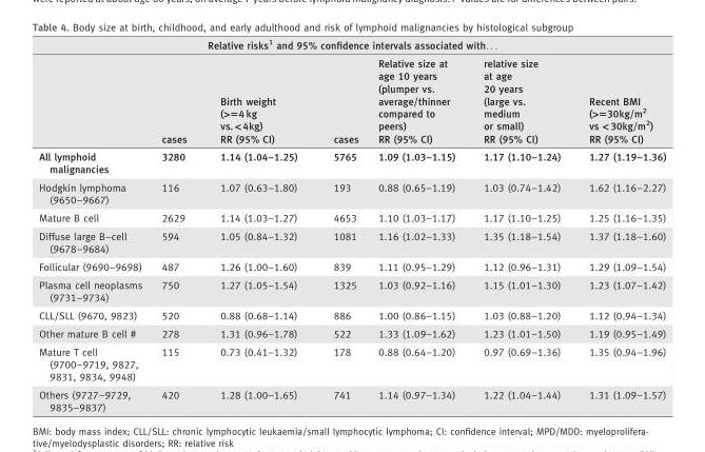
<table><thead><tr><td colspan="7">Relative risks1 and 95% confidence intervals associated with. . .</td></tr><tr><td rowspan="3"></td><td rowspan="3">cases</td><td rowspan="3">Birth weight (&gt;=4 kg vs. &lt; 4kg) RR (95% CI)</td><td rowspan="3">cases</td><td rowspan="3">Relative size at age 10 years (plumper vs. average/thinner compared to peers) RR (95% CI)</td><td rowspan="3">relative size at age 20 years (large vs. medium or small) RR (95% CI)</td><td rowspan="3">Recent BMI (&gt;=30kg/m<sup>2</sup> vs &lt; 30kg/m<sup>2</sup>) RR (95% CI)</td></tr><tr></tr><tr></tr></thead><tbody><tr><td>All lymphoid malignancies</td><td>3280</td><td>1.14 (1.04–1.25)</td><td>5765</td><td>1.09 (1.03–1.15)</td><td>1.17 (1.10–1.24)</td><td>1.27 (1.19–1.36)</td></tr><tr><td>Hodgkin lymphoma (9650–9667)</td><td>116</td><td>1.07 (0.63–1.80)</td><td>193</td><td>0.88 (0.65–1.19)</td><td>1.03 (0.74–1.42)</td><td>1.62 (1.16–2.27)</td></tr><tr><td>Mature B cell</td><td>2629</td><td>1.14 (1.03–1.27)</td><td>4653</td><td>1.10 (1.03–1.17)</td><td>1.17 (1.10–1.25)</td><td>1.25 (1.16–1.35)</td></tr><tr><td>Diffuse large B–cell (9678–9684)</td><td>594</td><td>1.05 (0.84–1.32)</td><td>1081</td><td>1.16 (1.02–1.33)</td><td>1.35 (1.18–1.54)</td><td>1.37 (1.18–1.60)</td></tr><tr><td>Follicular (9690–9698)</td><td>487</td><td>1.26 (1.00–1.60)</td><td>839</td><td>1.11 (0.95–1.29)</td><td>1.12 (0.96–1.31)</td><td>1.29 (1.09–1.54)</td></tr><tr><td>Plasma cell neoplasms (9731–9734)</td><td>750</td><td>1.27 (1.05–1.54)</td><td>1325</td><td>1.03 (0.92–1.16)</td><td>1.15 (1.01–1.30)</td><td>1.23 (1.07–1.42)</td></tr><tr><td>CLL/SLL (9670, 9823)</td><td>520</td><td>0.88 (0.68–1.14)</td><td>886</td><td>1.00 (0.86–1.15)</td><td>1.03 (0.88–1.20)</td><td>1.12 (0.94–1.34)</td></tr><tr><td>Other mature B cell #</td><td>278</td><td>1.31 (0.96–1.78)</td><td>522</td><td>1.33 (1.09–1.62)</td><td>1.23 (1.01–1.50)</td><td>1.19 (0.95–1.49)</td></tr><tr><td>Mature T cell (9700–9719, 9827, 9831, 9834, 9948)</td><td>115</td><td>0.73 (0.41–1.32)</td><td>178</td><td>0.88 (0.64–1.20)</td><td>0.97 (0.69–1.36)</td><td>1.35 (0.94–1.96)</td></tr><tr><td>Others (9727–9729, 9835–9837)</td><td>420</td><td>1.28 (1.00–1.65)</td><td>741</td><td>1.14 (0.97–1.34)</td><td>1.22 (1.04–1.44)</td><td>1.31 (1.09–1.57)</td></tr></tbody></table>